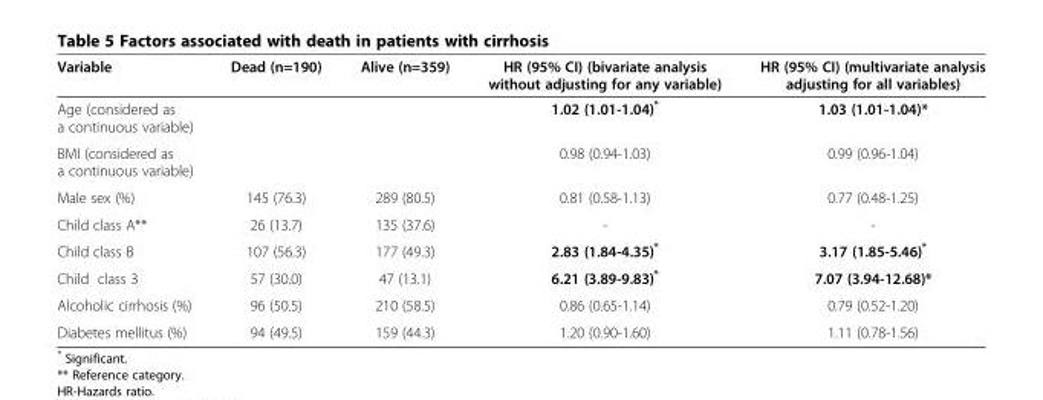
<table><thead><tr><td>Variable</td><td>Dead (n=190)</td><td>Alive (n=359)</td><td>HR (95% CI) (bivariate analysis without adjusting for any variable)</td><td>HR (95% CI) (multivariate analysis adjusting for all variables)</td></tr></thead><tbody><tr><td colspan="3">Age (considered as a continuous variable)</td><td>1.02 (1.01-1.04)*</td><td>1.03 (1.01-1.04)*</td></tr><tr><td colspan="3">BMI (considered as a continuous variable)</td><td>0.98 (0.94-1.03)</td><td>0.99 (0.96-1.04)</td></tr><tr><td>Male sex (%)</td><td>145 (76.3)</td><td>289 (80.5)</td><td>0.81 (0.58-1.13)</td><td>0.77 (0.48-1.25)</td></tr><tr><td>Child class A**</td><td>26 (13.7)</td><td>135 (37.6)</td><td>-</td><td>-</td></tr><tr><td>Child class B</td><td>107 (56.3)</td><td>177 (49.3)</td><td>2.83 (1.84-4.35)*</td><td>3.17 (1.85-5.46)*</td></tr><tr><td>Child class 3</td><td>57 (30.0)</td><td>47 (13.1)</td><td>6.21 (3.89-9.83)*</td><td>7.07 (3.94-12.68)*</td></tr><tr><td>Alcoholic cirrhosis (%)</td><td>96 (50.5)</td><td>210 (58.5)</td><td>0.86 (0.65-1.14)</td><td>0.79 (0.52-1.20)</td></tr><tr><td>Diabetes mellitus (%)</td><td>94 (49.5)</td><td>159 (44.3)</td><td>1.20 (0.90-1.60)</td><td>1.11 (0.78-1.56)</td></tr></tbody></table>